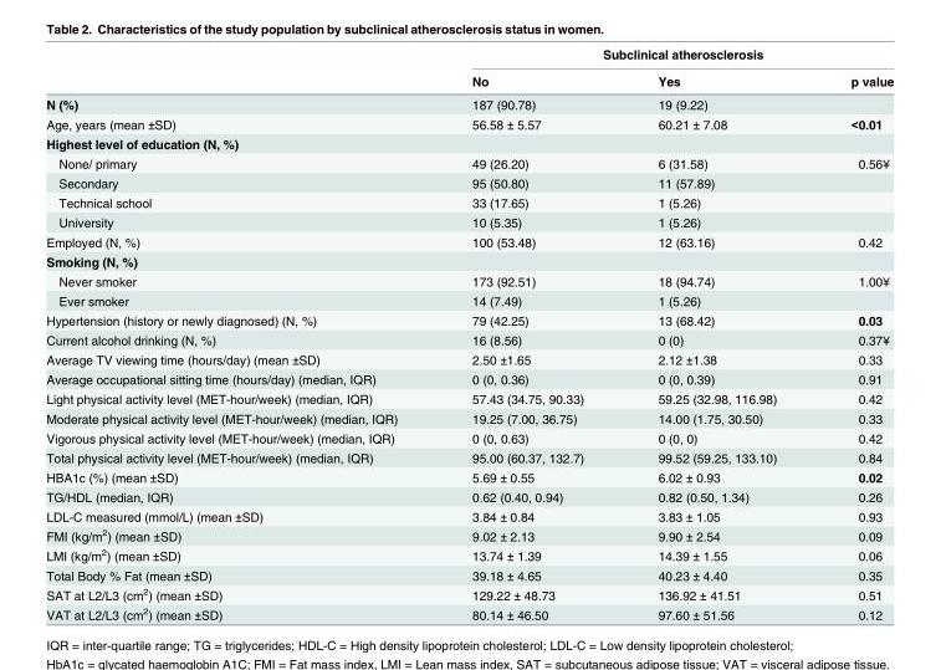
<table><thead><tr><td rowspan="2"></td><td colspan="3">Subclinical atherosclerosis</td></tr><tr><td>No</td><td>Yes</td><td>p value</td></tr></thead><tbody><tr><td>N (%)</td><td>187 (90.78)</td><td>19 (9.22)</td><td></td></tr><tr><td>Age, years (mean ±SD)</td><td>56.58 ± 5.57</td><td>60.21 ± 7.08</td><td>&lt;0.01</td></tr><tr><td colspan="4">Highest level of education (N, %)</td></tr><tr><td>None/ primary</td><td>49 (26.20)</td><td>6 (31.58)</td><td>0.56¥</td></tr><tr><td>Secondary</td><td>95 (50.80)</td><td>11 (57.89)</td><td></td></tr><tr><td>Technical school</td><td>33 (17.65)</td><td>1 (5.26)</td><td></td></tr><tr><td>University</td><td>10 (5.35)</td><td>1 (5.26)</td><td></td></tr><tr><td>Employed (N, %)</td><td>100 (53.48)</td><td>12 (63.16)</td><td>0.42</td></tr><tr><td colspan="4">Smoking (N, %)</td></tr><tr><td>Never smoker</td><td>173 (92.51)</td><td>18 (94.74)</td><td>1.00¥</td></tr><tr><td>Ever smoker</td><td>14 (7.49)</td><td>1 (5.26)</td><td></td></tr><tr><td>Hypertension (history or newly diagnosed) (N, %)</td><td>79 (42.25)</td><td>13 (68.42)</td><td>0.03</td></tr><tr><td>Current alcohol drinking (N, %)</td><td>16 (8.56)</td><td>0 (0)</td><td>0.37¥</td></tr><tr><td>Average TV viewing time (hours/day) (mean ±SD)</td><td>2.50 ±1.65</td><td>2.12 ±1.38</td><td>0.33</td></tr><tr><td>Average occupational sitting time (hours/day) (median, IQR)</td><td>0 (0, 0.36)</td><td>0 (0, 0.39)</td><td>0.91</td></tr><tr><td>Light physical activity level (MET-hour/week) (median, IQR)</td><td>57.43 (34.75, 90.33)</td><td>59.25 (32.98, 116.98)</td><td>0.42</td></tr><tr><td>Moderate physical activity level (MET-hour/week) (median, IQR)</td><td>19.25 (7.00, 36.75)</td><td>14.00 (1.75, 30.50)</td><td>0.33</td></tr><tr><td>Vigorous physical activity level (MET-hour/week) (median, IQR)</td><td>0 (0, 0.63)</td><td>0 (0, 0)</td><td>0.42</td></tr><tr><td>Total physical activity level (MET-hour/week) (median, IQR)</td><td>95.00 (60.37, 132.7)</td><td>99.52 (59.25, 133.10)</td><td>0.84</td></tr><tr><td>HBA1c (%) (mean ±SD)</td><td>5.69 ± 0.55</td><td>6.02 ± 0.93</td><td>0.02</td></tr><tr><td>TG/HDL (median, IQR)</td><td>0.62 (0.40, 0.94)</td><td>0.82 (0.50, 1.34)</td><td>0.26</td></tr><tr><td>LDL-C measured (mmol/L) (mean ±SD)</td><td>3.84 ± 0.84</td><td>3.83 ± 1.05</td><td>0.93</td></tr><tr><td>FMI (kg/m<sup>2</sup>) (mean ±SD)</td><td>9.02 ± 2.13</td><td>9.90 ± 2.54</td><td>0.09</td></tr><tr><td>LMI (kg/m<sup>2</sup>) (mean ±SD)</td><td>13.74 ± 1.39</td><td>14.39 ± 1.55</td><td>0.06</td></tr><tr><td>Total Body % Fat (mean ±SD)</td><td>39.18 ± 4.65</td><td>40.23 ± 4.40</td><td>0.35</td></tr><tr><td>SAT at L2/L3 (cm<sup>2</sup>) (mean ±SD)</td><td>129.22 ± 48.73</td><td>136.92 ± 41.51</td><td>0.51</td></tr><tr><td>VAT at L2/L3 (cm<sup>2</sup>) (mean ±SD)</td><td>80.14 ± 46.50</td><td>97.60 ± 51.56</td><td>0.12</td></tr></tbody></table>